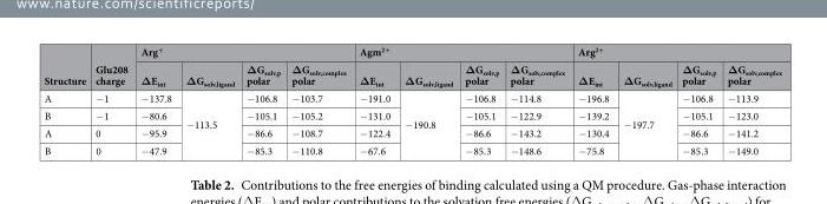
<table><thead><tr><td rowspan="2">Structure</td><td rowspan="2">Glu208 charge</td><td colspan="4">Arg<sup>+</sup></td><td colspan="4">Agm<sup>2+</sup></td><td colspan="4">Arg<sup>2+</sup></td></tr><tr><td>ΔE<sub>int</sub></td><td>ΔG<sub>solv,ligand</sub></td><td>ΔG<sub>solv,p</sub> polar</td><td>ΔG<sub>solv,complex</sub> polar</td><td>ΔE<sub>int</sub></td><td>ΔG<sub>solv,ligand</sub></td><td>ΔG<sub>solv,p</sub> polar</td><td>ΔG<sub>solv,complex</sub> polar</td><td>ΔE<sub>int</sub></td><td>ΔG<sub>solv,ligand</sub></td><td>ΔG<sub>solv,p</sub> polar</td><td>ΔG<sub>solv,complex</sub> polar</td></tr></thead><tbody><tr><td>A</td><td>−1</td><td>−137.8</td><td rowspan="4">−113.5</td><td>−106.8</td><td>−103.7</td><td>−191.0</td><td rowspan="4">−190.8</td><td>−106.8</td><td>−114.8</td><td>−196.8</td><td rowspan="4">−197.7</td><td>−106.8</td><td>−113.9</td></tr><tr><td>B</td><td>−1</td><td>−80.6</td><td>−105.1</td><td>−105.2</td><td>−131.0</td><td>−105.1</td><td>−122.9</td><td>−139.2</td><td>−105.1</td><td>−123.0</td></tr><tr><td>A</td><td>0</td><td>−95.9</td><td>−86.6</td><td>−108.7</td><td>−122.4</td><td>−86.6</td><td>−143.2</td><td>−130.4</td><td>−86.6</td><td>−141.2</td></tr><tr><td>B</td><td>0</td><td>−47.9</td><td>−85.3</td><td>−110.8</td><td>−67.6</td><td>−85.3</td><td>−148.6</td><td>−75.8</td><td>−85.3</td><td>−149.0</td></tr></tbody></table>